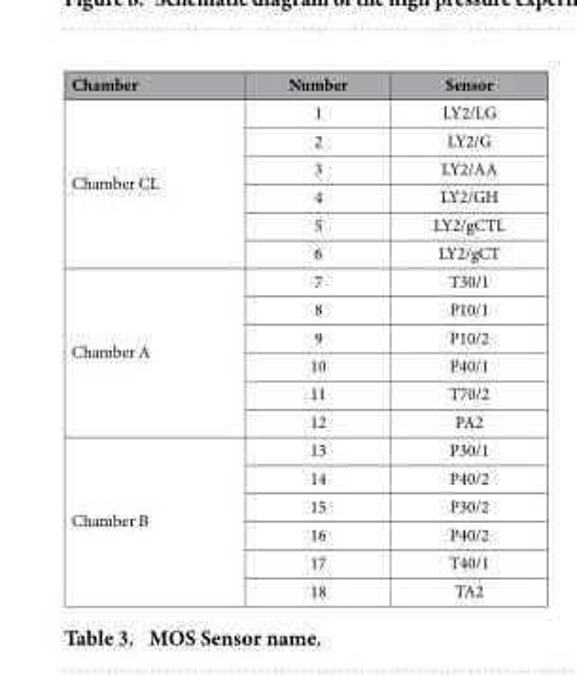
<table><thead><tr><td>Chamber</td><td>Number</td><td>Sensor</td></tr></thead><tbody><tr><td rowspan="6">Chamber CL</td><td>1</td><td>LY2/LG</td></tr><tr><td>2</td><td>LY2/G</td></tr><tr><td>3</td><td>LY2/AA</td></tr><tr><td>4</td><td>LY2/GH</td></tr><tr><td>5</td><td>LY2/gCTL</td></tr><tr><td>6</td><td>LY2/gCT</td></tr><tr><td rowspan="6">Chamber A</td><td>7</td><td>T30/1</td></tr><tr><td>8</td><td>P10/1</td></tr><tr><td>9</td><td>P10/2</td></tr><tr><td>10</td><td>P40/1</td></tr><tr><td>11</td><td>T70/2</td></tr><tr><td>12</td><td>PA2</td></tr><tr><td rowspan="6">Chamber B</td><td>13</td><td>P30/1</td></tr><tr><td>14</td><td>P40/2</td></tr><tr><td>15</td><td>P30/2</td></tr><tr><td>16</td><td>P40/2</td></tr><tr><td>17</td><td>T40/1</td></tr><tr><td>18</td><td>TA2</td></tr></tbody></table>